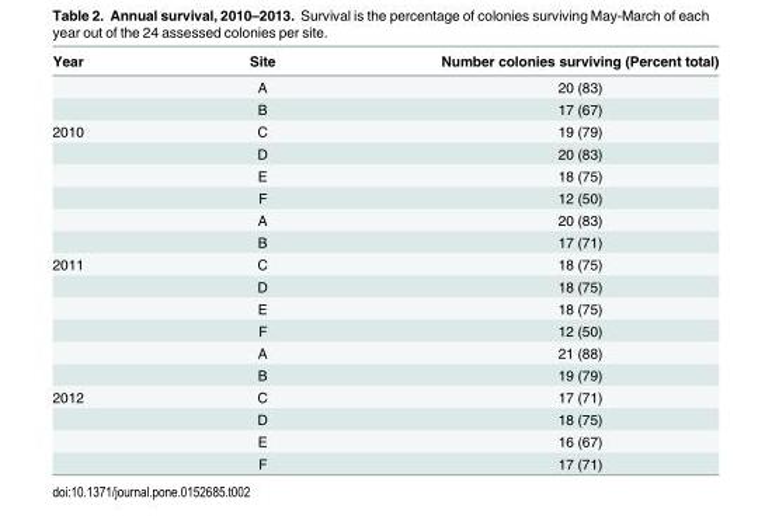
<table><thead><tr><td>Year</td><td>Site</td><td>Number colonies surviving (Percent total)</td></tr></thead><tbody><tr><td></td><td>A</td><td>20 (83)</td></tr><tr><td></td><td>B</td><td>17 (67)</td></tr><tr><td rowspan="6">2010</td><td>C</td><td>19 (79)</td></tr><tr><td>D</td><td>20 (83)</td></tr><tr><td>E</td><td>18 (75)</td></tr><tr><td>F</td><td>12 (50)</td></tr><tr><td>A</td><td>20 (83)</td></tr><tr><td>B</td><td>17 (71)</td></tr><tr><td rowspan="6">2011</td><td>C</td><td>18 (75)</td></tr><tr><td>D</td><td>18 (75)</td></tr><tr><td>E</td><td>18 (75)</td></tr><tr><td>F</td><td>12 (50)</td></tr><tr><td>A</td><td>21 (88)</td></tr><tr><td>B</td><td>19 (79)</td></tr><tr><td rowspan="4">2012</td><td>C</td><td>17 (71)</td></tr><tr><td>D</td><td>18 (75)</td></tr><tr><td>E</td><td>16 (67)</td></tr><tr><td>F</td><td>17 (71)</td></tr></tbody></table>